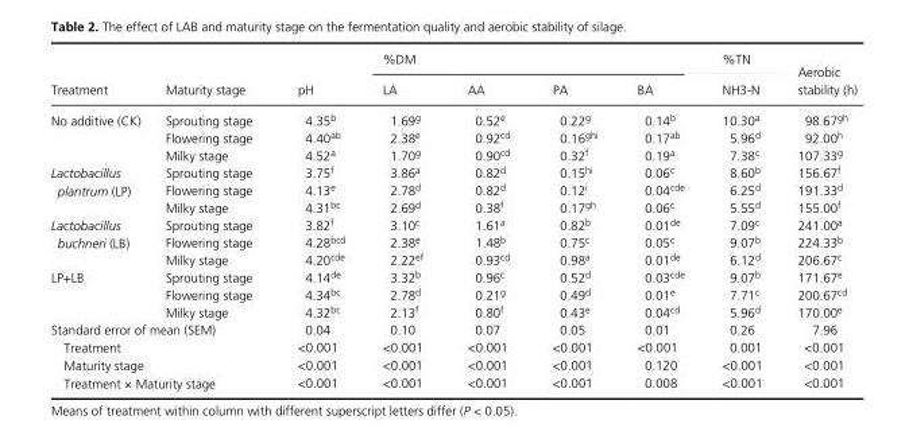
<table><thead><tr><td rowspan="2">Treatment</td><td rowspan="2">Maturity stage</td><td rowspan="2">pH</td><td colspan="4">%DM</td><td rowspan="2">%TN NH3- N</td><td rowspan="2">Aerobic stability (h)</td></tr><tr><td>LA</td><td>AA</td><td>PA</td><td>BA</td></tr></thead><tbody><tr><td rowspan="3">No additive (CK)</td><td>Sprouting stage</td><td>4.35<sup>b</sup></td><td>1.69<sup>g</sup></td><td>0.52<sup>e</sup></td><td>0.22<sup>g</sup></td><td>0.14<sup>b</sup></td><td>10.30<sup>a</sup></td><td>98.67<sup>gh</sup></td></tr><tr><td>Flowering stage</td><td>4.40<sup>ab</sup></td><td>2.38<sup>e</sup></td><td>0.92<sup>cd</sup></td><td>0.16<sup>ghi</sup></td><td>0.17<sup>ab</sup></td><td>5.96<sup>d</sup></td><td>92.00<sup>h</sup></td></tr><tr><td>Milky stage</td><td>4.52<sup>a</sup></td><td>1.70<sup>g</sup></td><td>0.90<sup>cd</sup></td><td>0.32<sup>f</sup></td><td>0.19<sup>a</sup></td><td>7.38<sup>c</sup></td><td>107.33<sup>g</sup></td></tr><tr><td rowspan="3">Lactobacillus plantrum (LP)</td><td>Sprouting stage</td><td>3.75<sup>f</sup></td><td>3.86<sup>a</sup></td><td>0.82<sup>d</sup></td><td>0.15<sup>hi</sup></td><td>0.06<sup>c</sup></td><td>8.60<sup>b</sup></td><td>156.67<sup>f</sup></td></tr><tr><td>Flowering stage</td><td>4.13<sup>e</sup></td><td>2.78<sup>d</sup></td><td>0.82<sup>d</sup></td><td>0.12<sup>i</sup></td><td>0.04<sup>cde</sup></td><td>6.25<sup>d</sup></td><td>191.33<sup>d</sup></td></tr><tr><td>Milky stage</td><td>4.31<sup>bc</sup></td><td>2.69<sup>d</sup></td><td>0.38<sup>f</sup></td><td>0.17<sup>gh</sup></td><td>0.06<sup>c</sup></td><td>5.55<sup>d</sup></td><td>155.00<sup>f</sup></td></tr><tr><td rowspan="3">Lactobacillus buchneri (LB)</td><td>Sprouting stage</td><td>3.82<sup>f</sup></td><td>3.10<sup>c</sup></td><td>1.61<sup>a</sup></td><td>0.82<sup>b</sup></td><td>0.01<sup>de</sup></td><td>7.09<sup>c</sup></td><td>241.00<sup>a</sup></td></tr><tr><td>Flowering stage</td><td>4.28<sup>bcd</sup></td><td>2.38<sup>e</sup></td><td>1.48<sup>b</sup></td><td>0.75<sup>c</sup></td><td>0.05<sup>c</sup></td><td>9.07<sup>b</sup></td><td>224.33<sup>b</sup></td></tr><tr><td>Milky stage</td><td>4.20<sup>cde</sup></td><td>2.22<sup>ef</sup></td><td>0.93<sup>cd</sup></td><td>0.98<sup>a</sup></td><td>0.01<sup>de</sup></td><td>6.12<sup>d</sup></td><td>206.67<sup>c</sup></td></tr><tr><td rowspan="3">LP+LB</td><td>Sprouting stage</td><td>4.14<sup>de</sup></td><td>3.32<sup>b</sup></td><td>0.96<sup>c</sup></td><td>0.52<sup>d</sup></td><td>0.03<sup>cde</sup></td><td>9.07<sup>b</sup></td><td>171.67<sup>e</sup></td></tr><tr><td>Flowering stage</td><td>4.34<sup>bc</sup></td><td>2.78<sup>d</sup></td><td>0.21<sup>g</sup></td><td>0.49<sup>d</sup></td><td>0.01<sup>e</sup></td><td>7.71<sup>c</sup></td><td>200.67<sup>cd</sup></td></tr><tr><td>Milky stage</td><td>4.32<sup>bc</sup></td><td>2.13<sup>f</sup></td><td>0.80<sup>f</sup></td><td>0.43<sup>e</sup></td><td>0.04<sup>cd</sup></td><td>5.96<sup>d</sup></td><td>170.00<sup>e</sup></td></tr><tr><td colspan="2">Standard error of mean (SEM)</td><td>0.04</td><td>0.10</td><td>0.07</td><td>0.05</td><td>0.01</td><td>0.26</td><td>7.96</td></tr><tr><td colspan="2">Treatment</td><td>&lt;0.001</td><td>&lt;0.001</td><td>&lt;0.001</td><td>&lt;0.001</td><td>&lt;0.001</td><td>0.001</td><td>&lt;0.001</td></tr><tr><td colspan="2">Maturity stage</td><td>&lt;0.001</td><td>&lt;0.001</td><td>&lt;0.001</td><td>&lt;0.001</td><td>0.120</td><td>&lt;0.001</td><td>&lt;0.001</td></tr><tr><td colspan="2">Treatment × Maturity stage</td><td>&lt;0.001</td><td>&lt;0.001</td><td>&lt;0.001</td><td>&lt;0.001</td><td>0.008</td><td>&lt;0.001</td><td>&lt;0.001</td></tr></tbody></table>